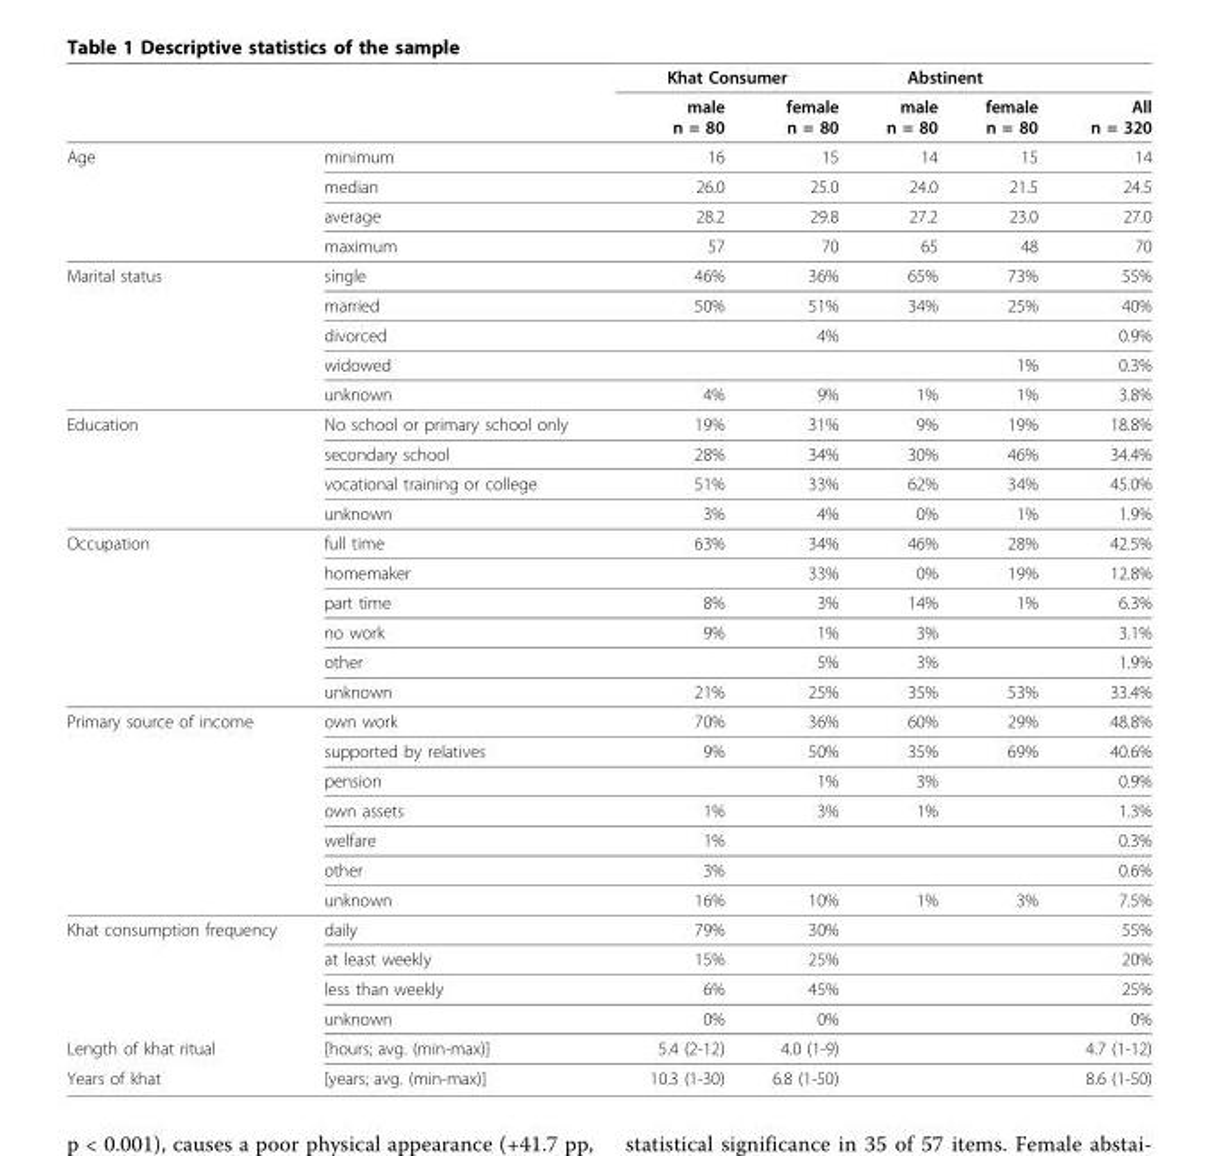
<table><thead><tr><td rowspan="2"></td><td rowspan="2"></td><td colspan="2">Khat Consumer</td><td colspan="2">Abstinent</td><td rowspan="2">All n = 320</td></tr><tr><td>male n = 80</td><td>female n = 80</td><td>male n = 80</td><td>female n = 80</td></tr></thead><tbody><tr><td rowspan="4">Age</td><td>minimum</td><td>16</td><td>15</td><td>14</td><td>15</td><td>14</td></tr><tr><td>median</td><td>26.0</td><td>25.0</td><td>24.0</td><td>21.5</td><td>24.5</td></tr><tr><td>average</td><td>28.2</td><td>29.8</td><td>27.2</td><td>23.0</td><td>27.0</td></tr><tr><td>maximum</td><td>57</td><td>70</td><td>65</td><td>48</td><td>70</td></tr><tr><td rowspan="5">Marital status</td><td>single</td><td>46%</td><td>36%</td><td>65%</td><td>73%</td><td>55%</td></tr><tr><td>married</td><td>50%</td><td>51%</td><td>34%</td><td>25%</td><td>40%</td></tr><tr><td>divorced</td><td></td><td>4%</td><td></td><td></td><td>0.9%</td></tr><tr><td>widowed</td><td></td><td></td><td></td><td>1%</td><td>0.3%</td></tr><tr><td>unknown</td><td>4%</td><td>9%</td><td>1%</td><td>1%</td><td>3.8%</td></tr><tr><td rowspan="4">Education</td><td>No school or primary school only</td><td>19%</td><td>31%</td><td>9%</td><td>19%</td><td>18.8%</td></tr><tr><td>secondary school</td><td>28%</td><td>34%</td><td>30%</td><td>46%</td><td>34.4%</td></tr><tr><td>vocational training or college</td><td>51%</td><td>33%</td><td>62%</td><td>34%</td><td>45.0%</td></tr><tr><td>unknown</td><td>3%</td><td>4%</td><td>0%</td><td>1%</td><td>1.9%</td></tr><tr><td rowspan="6">Occupation</td><td>full time</td><td>63%</td><td>34%</td><td>46%</td><td>28%</td><td>42.5%</td></tr><tr><td>homemaker</td><td></td><td>33%</td><td>0%</td><td>19%</td><td>12.8%</td></tr><tr><td>part time</td><td>8%</td><td>3%</td><td>14%</td><td>1%</td><td>6.3%</td></tr><tr><td>no work</td><td>9%</td><td>1%</td><td>3%</td><td></td><td>3.1%</td></tr><tr><td>other</td><td></td><td>5%</td><td>3%</td><td></td><td>1.9%</td></tr><tr><td>unknown</td><td>21%</td><td>25%</td><td>35%</td><td>53%</td><td>33.4%</td></tr><tr><td rowspan="7">Primary source of income</td><td>own work</td><td>70%</td><td>36%</td><td>60%</td><td>29%</td><td>48.8%</td></tr><tr><td>supported by relatives</td><td>9%</td><td>50%</td><td>35%</td><td>69%</td><td>40.6%</td></tr><tr><td>pension</td><td></td><td>1%</td><td>3%</td><td></td><td>0.9%</td></tr><tr><td>own assets</td><td>1%</td><td>3%</td><td>1%</td><td></td><td>1.3%</td></tr><tr><td>welfare</td><td>1%</td><td></td><td></td><td></td><td>0.3%</td></tr><tr><td>other</td><td>3%</td><td></td><td></td><td></td><td>0.6%</td></tr><tr><td>unknown</td><td>16%</td><td>10%</td><td>1%</td><td>3%</td><td>7.5%</td></tr><tr><td rowspan="4">Khat consumption frequency</td><td>daily</td><td>79%</td><td>30%</td><td></td><td></td><td>55%</td></tr><tr><td>at least weekly</td><td>15%</td><td>25%</td><td></td><td></td><td>20%</td></tr><tr><td>less than weekly</td><td>6%</td><td>45%</td><td></td><td></td><td>25%</td></tr><tr><td>unknown</td><td>0%</td><td>0%</td><td></td><td></td><td>0%</td></tr><tr><td>Length of khat ritual</td><td>[hours; avg. (min-max)]</td><td>5.4 (2-12)</td><td>4.0 (1-9)</td><td></td><td></td><td>4.7 (1-12)</td></tr><tr><td>Years of khat</td><td>[years; avg. (min-max)]</td><td>10.3 (1-30)</td><td>6.8 (1-50)</td><td></td><td></td><td>8.6 (1-50)</td></tr></tbody></table>